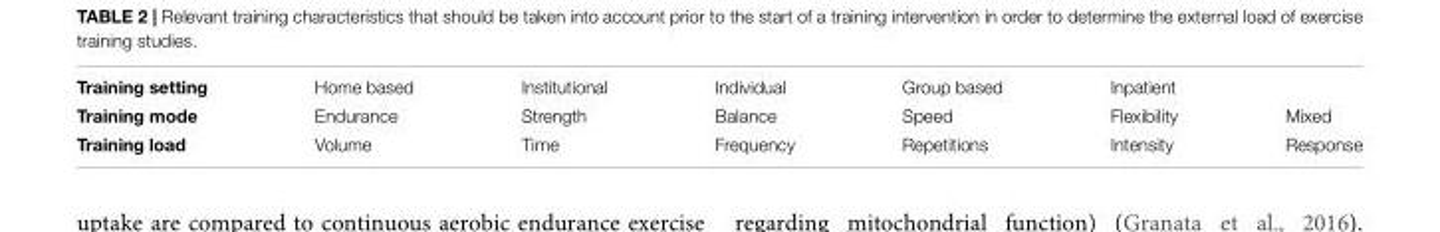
<table><tbody><tr><td>Training setting</td><td>Home based</td><td>Institutional</td><td>Individual</td><td>Group based</td><td>Inpatient</td><td></td></tr><tr><td>Training mode</td><td>Endurance</td><td>Strength</td><td>Balance</td><td>Speed</td><td>Flexibility</td><td>Mixed</td></tr><tr><td>Training load</td><td>Volume</td><td>Time</td><td>Frequency</td><td>Repetitions</td><td>Intensity</td><td>Response</td></tr></tbody></table>